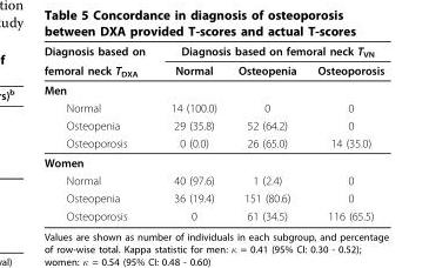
<table><thead><tr><td rowspan="2">Diagnosis based on femoral neck T<sub>DXA</sub></td><td colspan="3">Diagnosis based on femoral neck T<sub>VN</sub></td></tr><tr><td>Normal</td><td>Osteopenia</td><td>Osteoporosis</td></tr></thead><tbody><tr><td colspan="4">Men</td></tr><tr><td>Normal</td><td>14 (100.0)</td><td>0</td><td>0</td></tr><tr><td>Osteopenia</td><td>29 (35.8)</td><td>52 (64.2)</td><td>0</td></tr><tr><td>Osteoporosis</td><td>0 (0.0)</td><td>26 (65.0)</td><td>14 (35.0)</td></tr><tr><td colspan="4">Women</td></tr><tr><td>Normal</td><td>40 (97.6)</td><td>1 (2.4)</td><td>0</td></tr><tr><td>Osteopenia</td><td>36 (19.4)</td><td>151 (80.6)</td><td>0</td></tr><tr><td>Osteoporosis</td><td>0</td><td>61 (34.5)</td><td>116 (65.5)</td></tr></tbody></table>